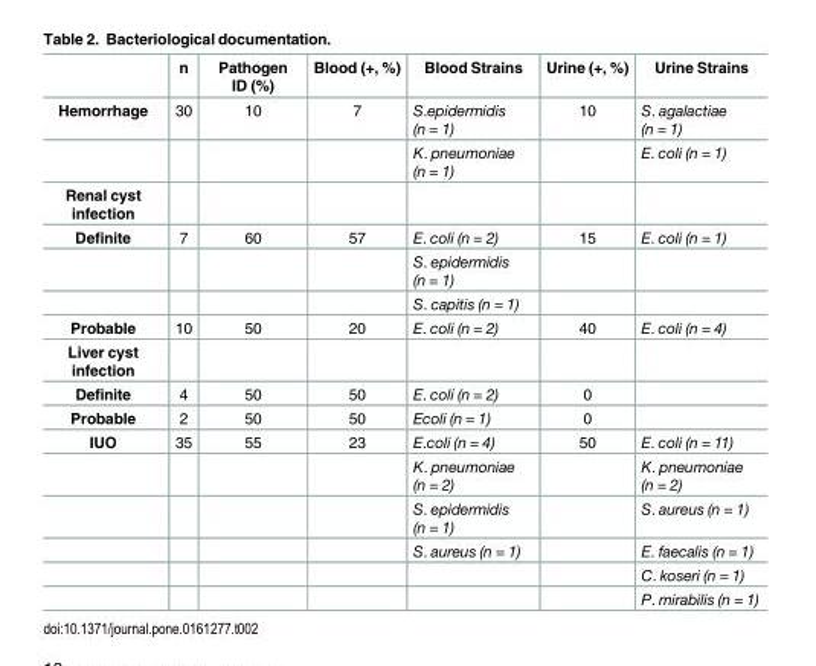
<table><thead><tr><td></td><td>n</td><td>Pathogen ID (%)</td><td>Blood (+, %)</td><td>Blood Strains</td><td>Urine (+, %)</td><td>Urine Strains</td></tr></thead><tbody><tr><td rowspan="2">Hemorrhage</td><td>30</td><td>10</td><td>7</td><td>S.epidermidis (n = 1)</td><td>10</td><td>S. agalactiae (n = 1)</td></tr><tr><td></td><td></td><td></td><td>K. pneumoniae (n = 1)</td><td></td><td>E. coli (n = 1)</td></tr><tr><td colspan="7">Renal cyst infection</td></tr><tr><td rowspan="3">Definite</td><td>7</td><td>60</td><td>57</td><td>E. coli (n = 2)</td><td>15</td><td>E. coli (n = 1)</td></tr><tr><td></td><td></td><td></td><td>S. epidermidis (n = 1)</td><td></td><td></td></tr><tr><td></td><td></td><td></td><td>S. capitis (n = 1)</td><td></td><td></td></tr><tr><td>Probable</td><td>10</td><td>50</td><td>20</td><td>E. coli (n = 2)</td><td>40</td><td>E. coli (n = 4)</td></tr><tr><td colspan="7">Liver cyst infection</td></tr><tr><td>Definite</td><td>4</td><td>50</td><td>50</td><td>E. coli (n = 2)</td><td>0</td><td></td></tr><tr><td>Probable</td><td>2</td><td>50</td><td>50</td><td>Ecoli (n = 1)</td><td>0</td><td></td></tr><tr><td rowspan="6">IUO</td><td>35</td><td>55</td><td>23</td><td>E.coli (n = 4)</td><td>50</td><td>E. coli (n = 11)</td></tr><tr><td></td><td></td><td></td><td>K. pneumoniae (n = 2)</td><td></td><td>K. pneumoniae (n = 2)</td></tr><tr><td></td><td></td><td></td><td>S. epidermidis (n = 1)</td><td></td><td>S. aureus (n = 1)</td></tr><tr><td></td><td></td><td></td><td>S. aureus (n = 1)</td><td></td><td>E. faecalis (n = 1)</td></tr><tr><td></td><td></td><td></td><td></td><td></td><td>C. koseri (n = 1)</td></tr><tr><td></td><td></td><td></td><td></td><td></td><td>P. mirabilis (n = 1)</td></tr></tbody></table>